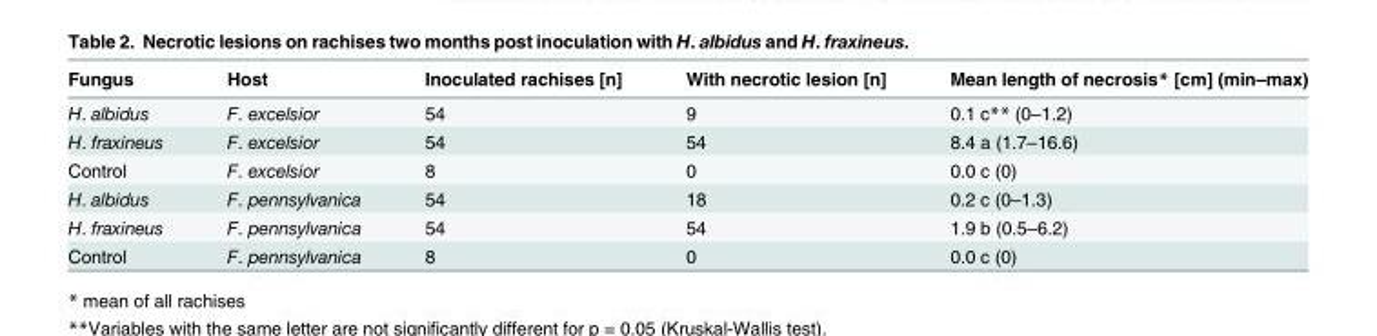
<table><thead><tr><td>Fungus</td><td>Host</td><td>Inoculated rachises [n]</td><td>With necrotic lesion [n]</td><td>Mean length of necrosis* [cm] (min–max)</td></tr></thead><tbody><tr><td>H. albidus</td><td>F. excelsior</td><td>54</td><td>9</td><td>0.1 c** (0–1.2)</td></tr><tr><td>H. fraxineus</td><td>F. excelsior</td><td>54</td><td>54</td><td>8.4 a (1.7–16.6)</td></tr><tr><td>Control</td><td>F. excelsior</td><td>8</td><td>0</td><td>0.0 c (0)</td></tr><tr><td>H. albidus</td><td>F. pennsylvanica</td><td>54</td><td>18</td><td>0.2 c (0–1.3)</td></tr><tr><td>H. fraxineus</td><td>F. pennsylvanica</td><td>54</td><td>54</td><td>1.9 b (0.5–6.2)</td></tr><tr><td>Control</td><td>F. pennsylvanica</td><td>8</td><td>0</td><td>0.0 c (0)</td></tr></tbody></table>